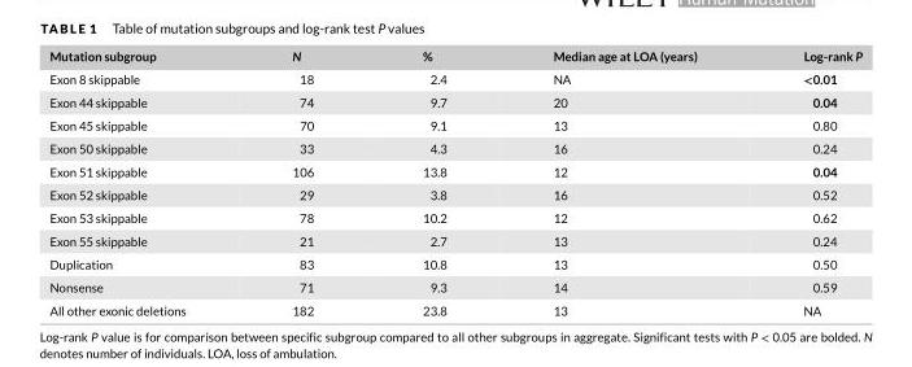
<table><thead><tr><td>Mutation subgroup</td><td>N</td><td>%</td><td>Median age at LOA (years)</td><td>Log-rank P</td></tr></thead><tbody><tr><td>Exon 8 skippable</td><td>18</td><td>2.4</td><td>NA</td><td>&lt;0.01</td></tr><tr><td>Exon 44 skippable</td><td>74</td><td>9.7</td><td>20</td><td>0.04</td></tr><tr><td>Exon 45 skippable</td><td>70</td><td>9.1</td><td>13</td><td>0.80</td></tr><tr><td>Exon 50 skippable</td><td>33</td><td>4.3</td><td>16</td><td>0.24</td></tr><tr><td>Exon 51 skippable</td><td>106</td><td>13.8</td><td>12</td><td>0.04</td></tr><tr><td>Exon 52 skippable</td><td>29</td><td>3.8</td><td>16</td><td>0.52</td></tr><tr><td>Exon 53 skippable</td><td>78</td><td>10.2</td><td>12</td><td>0.62</td></tr><tr><td>Exon 55 skippable</td><td>21</td><td>2.7</td><td>13</td><td>0.24</td></tr><tr><td>Duplication</td><td>83</td><td>10.8</td><td>13</td><td>0.50</td></tr><tr><td>Nonsense</td><td>71</td><td>9.3</td><td>14</td><td>0.59</td></tr><tr><td>All other exonic deletions</td><td>182</td><td>23.8</td><td>13</td><td>NA</td></tr></tbody></table>